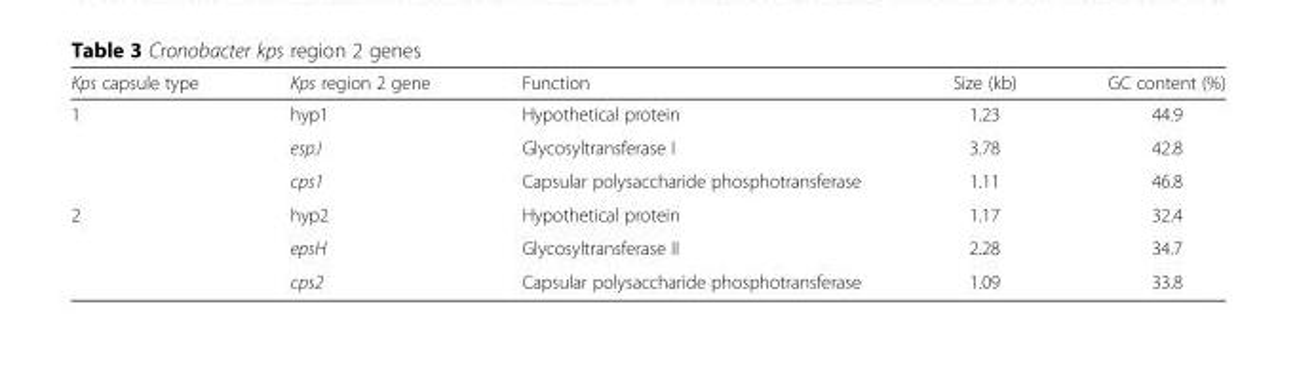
<table><thead><tr><td>Kps capsule type</td><td>Kps region 2 gene</td><td>Function</td><td>Size (kb)</td><td>GC content (%)</td></tr></thead><tbody><tr><td rowspan="3">1</td><td>hyp1</td><td>Hypothetical protein</td><td>1.23</td><td>44.9</td></tr><tr><td>espJ</td><td>Glycosyltransferase I</td><td>3.78</td><td>42.8</td></tr><tr><td>cps1</td><td>Capsular polysaccharide phosphotransferase</td><td>1.11</td><td>46.8</td></tr><tr><td rowspan="3">2</td><td>hyp2</td><td>Hypothetical protein</td><td>1.17</td><td>32.4</td></tr><tr><td>epsH</td><td>Glycosyltransferase II</td><td>2.28</td><td>34.7</td></tr><tr><td>cps2</td><td>Capsular polysaccharide phosphotransferase</td><td>1.09</td><td>33.8</td></tr></tbody></table>